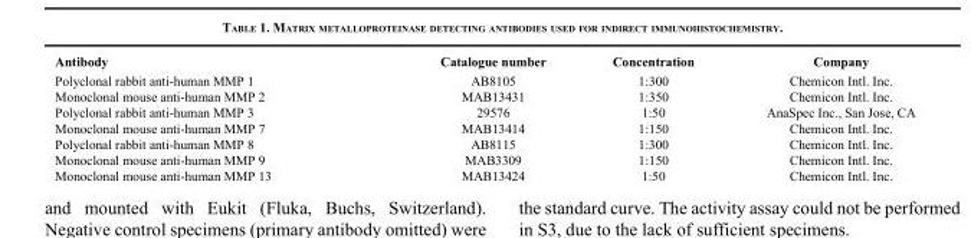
<table><thead><tr><td>Antibody</td><td>Catalogue number</td><td>Concentration</td><td>Company</td></tr></thead><tbody><tr><td>Polyclonal rabbit anti-human MMP 1</td><td>AB8105</td><td>1:300</td><td>Chemicon Intl. Inc.</td></tr><tr><td>Monoclonal mouse anti-human MMP 2</td><td>MAB13431</td><td>1:350</td><td>Chemicon Intl. Inc.</td></tr><tr><td>Polyclonal rabbit anti-human MMP 3</td><td>29576</td><td>1:50</td><td>AnaSpec Inc., San Jose, CA</td></tr><tr><td>Monoclonal mouse anti-human MMP 7</td><td>MAB13414</td><td>1:150</td><td>Chemicon Intl. Inc.</td></tr><tr><td>Polyclonal rabbit anti-human MMP 8</td><td>AB8115</td><td>1:300</td><td>Chemicon Intl. Inc.</td></tr><tr><td>Monoclonal mouse anti-human MMP 9</td><td>MAB3309</td><td>1:150</td><td>Chemicon Intl. Inc.</td></tr><tr><td>Monoclonal mouse anti-human MMP 13</td><td>MAB13424</td><td>1:50</td><td>Chemicon Intl. Inc.</td></tr></tbody></table>